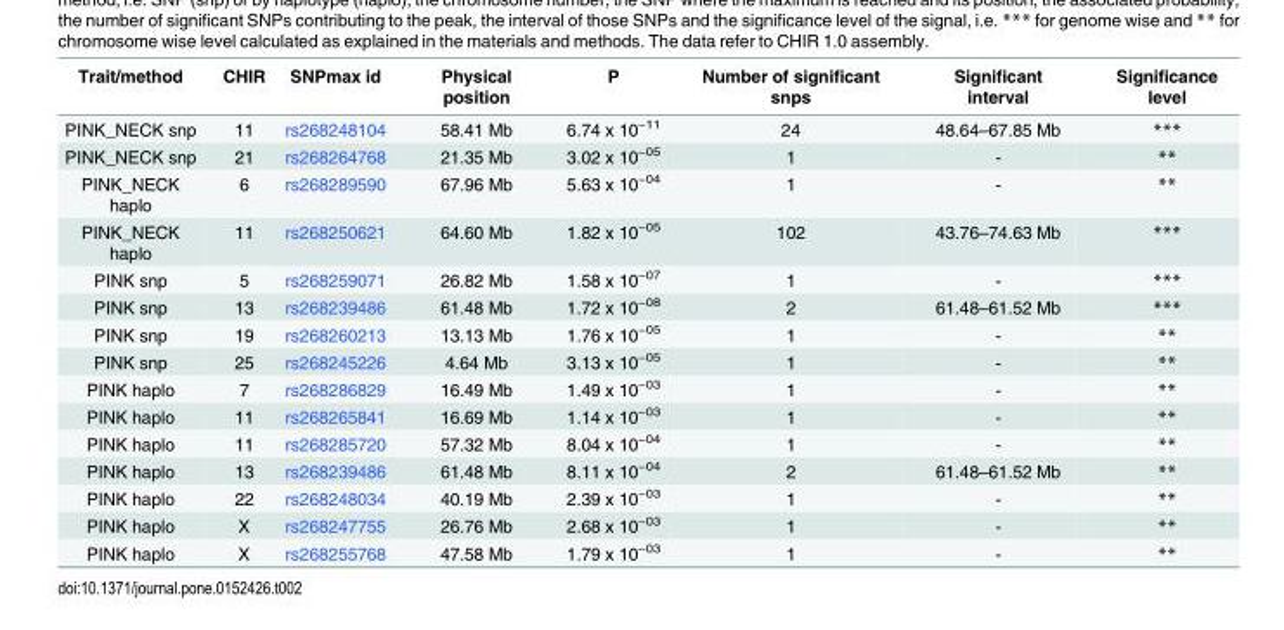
<table><thead><tr><td>Trait/method</td><td>CHIR</td><td>SNPmax id</td><td>Physical position</td><td>P</td><td>Number of significant snps</td><td>Significant interval</td><td>Significance level</td></tr></thead><tbody><tr><td>PINK_NECK snp</td><td>11</td><td>rs268248104</td><td>58.41 Mb</td><td>6.74 x 10<sup>−11</sup></td><td>24</td><td>48.64–67.85 Mb</td><td>***</td></tr><tr><td>PINK_NECK snp</td><td>21</td><td>rs268264768</td><td>21.35 Mb</td><td>3.02 x 10<sup>−05</sup></td><td>1</td><td>-</td><td>**</td></tr><tr><td>PINK_NECK haplo</td><td>6</td><td>rs268289590</td><td>67.96 Mb</td><td>5.63 x 10<sup>−04</sup></td><td>1</td><td>-</td><td>**</td></tr><tr><td>PINK_NECK haplo</td><td>11</td><td>rs268250621</td><td>64.60 Mb</td><td>1.82 x 10<sup>−05</sup></td><td>102</td><td>43.76–74.63 Mb</td><td>***</td></tr><tr><td>PINK snp</td><td>5</td><td>rs268259071</td><td>26.82 Mb</td><td>1.58 x 10<sup>−07</sup></td><td>1</td><td>-</td><td>***</td></tr><tr><td>PINK snp</td><td>13</td><td>rs268239486</td><td>61.48 Mb</td><td>1.72 x 10<sup>−08</sup></td><td>2</td><td>61.48–61.52 Mb</td><td>***</td></tr><tr><td>PINK snp</td><td>19</td><td>rs268260213</td><td>13.13 Mb</td><td>1.76 x 10<sup>−05</sup></td><td>1</td><td>-</td><td>**</td></tr><tr><td>PINK snp</td><td>25</td><td>rs268245226</td><td>4.64 Mb</td><td>3.13 x 10<sup>−05</sup></td><td>1</td><td>-</td><td>**</td></tr><tr><td>PINK haplo</td><td>7</td><td>rs268286829</td><td>16.49 Mb</td><td>1.49 x 10<sup>−03</sup></td><td>1</td><td>-</td><td>**</td></tr><tr><td>PINK haplo</td><td>11</td><td>rs268265841</td><td>16.69 Mb</td><td>1.14 x 10<sup>−03</sup></td><td>1</td><td>-</td><td>**</td></tr><tr><td>PINK haplo</td><td>11</td><td>rs268285720</td><td>57.32 Mb</td><td>8.04 x 10<sup>−04</sup></td><td>1</td><td>-</td><td>**</td></tr><tr><td>PINK haplo</td><td>13</td><td>rs268239486</td><td>61.48 Mb</td><td>8.11 x 10<sup>−04</sup></td><td>2</td><td>61.48–61.52 Mb</td><td>**</td></tr><tr><td>PINK haplo</td><td>22</td><td>rs268248034</td><td>40.19 Mb</td><td>2.39 x 10<sup>−03</sup></td><td>1</td><td>-</td><td>**</td></tr><tr><td>PINK haplo</td><td>X</td><td>rs268247755</td><td>26.76 Mb</td><td>2.68 x 10<sup>−03</sup></td><td>1</td><td>-</td><td>**</td></tr><tr><td>PINK haplo</td><td>X</td><td>rs268255768</td><td>47.58 Mb</td><td>1.79 x 10<sup>−03</sup></td><td>1</td><td>-</td><td>**</td></tr></tbody></table>